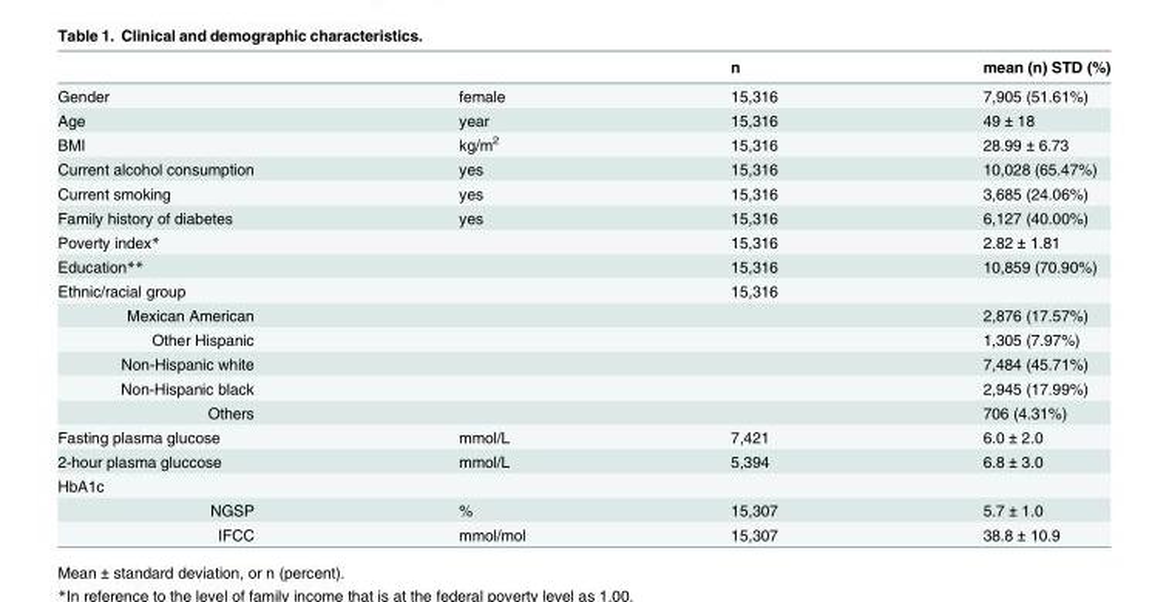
<table><thead><tr><td></td><td></td><td>n</td><td>mean (n) STD (%)</td></tr></thead><tbody><tr><td>Gender</td><td>female</td><td>15,316</td><td>7,905 (51.61%)</td></tr><tr><td>Age</td><td>year</td><td>15,316</td><td>49 ± 18</td></tr><tr><td>BMI</td><td>kg/m<sup>2</sup></td><td>15,316</td><td>28.99 ± 6.73</td></tr><tr><td>Current alcohol consumption</td><td>yes</td><td>15,316</td><td>10,028 (65.47%)</td></tr><tr><td>Current smoking</td><td>yes</td><td>15,316</td><td>3,685 (24.06%)</td></tr><tr><td>Family history of diabetes</td><td>yes</td><td>15,316</td><td>6,127 (40.00%)</td></tr><tr><td>Poverty index*</td><td></td><td>15,316</td><td>2.82 ± 1.81</td></tr><tr><td>Education**</td><td></td><td>15,316</td><td>10,859 (70.90%)</td></tr><tr><td>Ethnic/racial group</td><td></td><td>15,316</td><td></td></tr><tr><td>Mexican American</td><td></td><td></td><td>2,876 (17.57%)</td></tr><tr><td>Other Hispanic</td><td></td><td></td><td>1,305 (7.97%)</td></tr><tr><td>Non-Hispanic white</td><td></td><td></td><td>7,484 (45.71%)</td></tr><tr><td>Non-Hispanic black</td><td></td><td></td><td>2,945 (17.99%)</td></tr><tr><td>Others</td><td></td><td></td><td>706 (4.31%)</td></tr><tr><td>Fasting plasma glucose</td><td>mmol/L</td><td>7,421</td><td>6.0 ± 2.0</td></tr><tr><td>2-hour plasma gluccose</td><td>mmol/L</td><td>5,394</td><td>6.8 ± 3.0</td></tr><tr><td colspan="4">HbA1c</td></tr><tr><td>NGSP</td><td>%</td><td>15,307</td><td>5.7 ± 1.0</td></tr><tr><td>IFCC</td><td>mmol/mol</td><td>15,307</td><td>38.8 ± 10.9</td></tr></tbody></table>